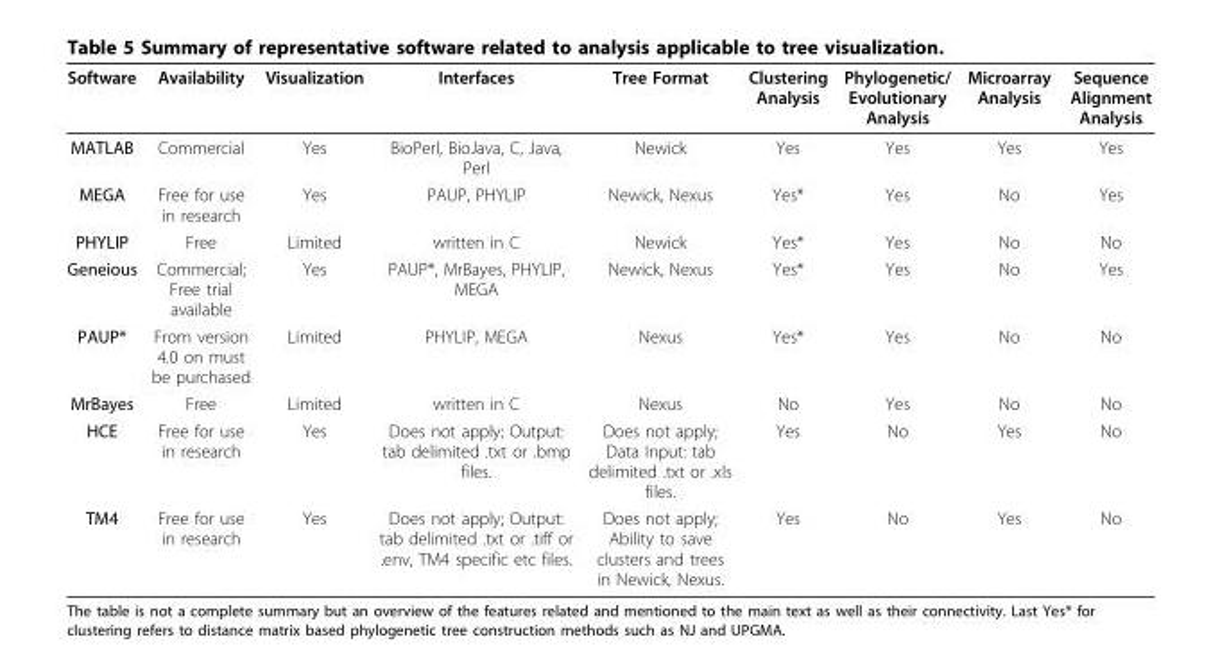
<table><thead><tr><td>Software</td><td>Availability</td><td>Visualization</td><td>Interfaces</td><td>Tree Format</td><td>Clustering Analysis</td><td>Phylogenetic/ Evolutionary Analysis</td><td>Microarray Analysis</td><td>Sequence Alignment Analysis</td></tr></thead><tbody><tr><td>MATLAB</td><td>Commercial</td><td>Yes</td><td>BioPerl, BioJava, C, Java, Perl</td><td>Newick</td><td>Yes</td><td>Yes</td><td>Yes</td><td>Yes</td></tr><tr><td>MEGA</td><td>Free for use in research</td><td>Yes</td><td>PAUP, PHYLIP</td><td>Newick, Nexus</td><td>Yes*</td><td>Yes</td><td>No</td><td>Yes</td></tr><tr><td>PHYLIP</td><td>Free</td><td>Limited</td><td>written in C</td><td>Newick</td><td>Yes*</td><td>Yes</td><td>No</td><td>No</td></tr><tr><td>Geneious</td><td>Commercial; Free trial available</td><td>Yes</td><td>PAUP*, MrBayes, PHYLIP, MEGA</td><td>Newick, Nexus</td><td>Yes*</td><td>Yes</td><td>No</td><td>Yes</td></tr><tr><td>PAUP*</td><td>From version 4.0 on must be purchased</td><td>Limited</td><td>PHYLIP, MEGA</td><td>Nexus</td><td>Yes*</td><td>Yes</td><td>No</td><td>No</td></tr><tr><td>MrBayes</td><td>Free</td><td>Limited</td><td>written in C</td><td>Nexus</td><td>No</td><td>Yes</td><td>No</td><td>No</td></tr><tr><td>HCE</td><td>Free for use in research</td><td>Yes</td><td>Does not apply; Output: tab delimited .txt or .bmp files.</td><td>Does not apply; Data Input: tab delimited .txt or .xls files.</td><td>Yes</td><td>No</td><td>Yes</td><td>No</td></tr><tr><td>TM4</td><td>Free for use in research</td><td>Yes</td><td>Does not apply; Output: tab delimited .txt or .tiff or .env, TM4 specific etc files.</td><td>Does not apply; Ability to save clusters and trees in Newick, Nexus.</td><td>Yes</td><td>No</td><td>Yes</td><td>No</td></tr></tbody></table>